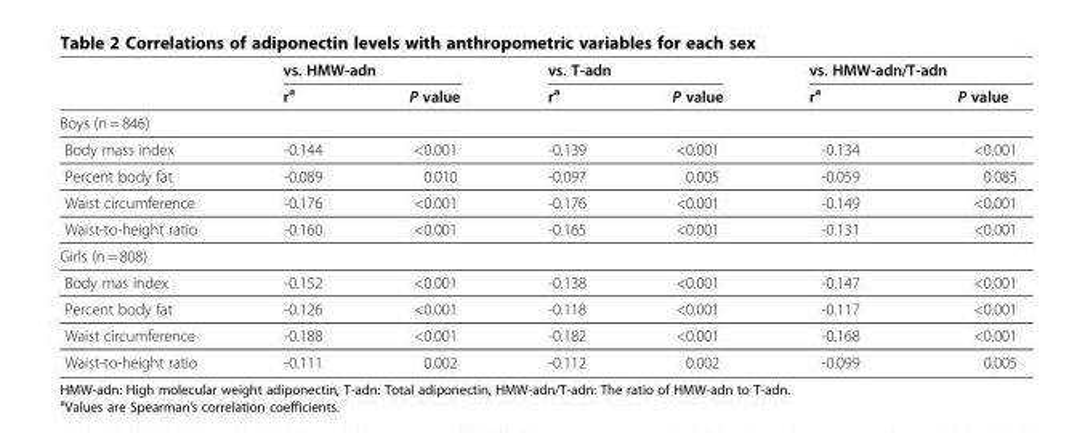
<table><thead><tr><td rowspan="2"></td><td colspan="2">vs. HMW-adn</td><td colspan="2">vs. T-adn</td><td colspan="2">vs. HMW-adn/T-adn</td></tr><tr><td>r<sup>a</sup></td><td>P value</td><td>r<sup>a</sup></td><td>P value</td><td>r<sup>a</sup></td><td>P value</td></tr></thead><tbody><tr><td colspan="7">Boys (n = 846)</td></tr><tr><td>Body mass index</td><td>-0.144</td><td>&lt;0.001</td><td>-0.139</td><td>&lt;0.001</td><td>-0.134</td><td>&lt;0.001</td></tr><tr><td>Percent body fat</td><td>-0.089</td><td>0.010</td><td>-0.097</td><td>0.005</td><td>-0.059</td><td>0.085</td></tr><tr><td>Waist circumference</td><td>-0.176</td><td>&lt;0.001</td><td>-0.176</td><td>&lt;0.001</td><td>-0.149</td><td>&lt;0.001</td></tr><tr><td>Waist-to-height ratio</td><td>-0.160</td><td>&lt;0.001</td><td>-0.165</td><td>&lt;0.001</td><td>-0.131</td><td>&lt;0.001</td></tr><tr><td colspan="7">Girls (n = 808)</td></tr><tr><td>Body mas index</td><td>-0.152</td><td>&lt;0.001</td><td>-0.138</td><td>&lt;0.001</td><td>-0.147</td><td>&lt;0.001</td></tr><tr><td>Percent body fat</td><td>-0.126</td><td>&lt;0.001</td><td>-0.118</td><td>&lt;0.001</td><td>-0.117</td><td>&lt;0.001</td></tr><tr><td>Waist circumference</td><td>-0.188</td><td>&lt;0.001</td><td>-0.182</td><td>&lt;0.001</td><td>-0.168</td><td>&lt;0.001</td></tr><tr><td>Waist-to-height ratio</td><td>-0.111</td><td>0.002</td><td>-0.112</td><td>0.002</td><td>-0.099</td><td>0.005</td></tr></tbody></table>